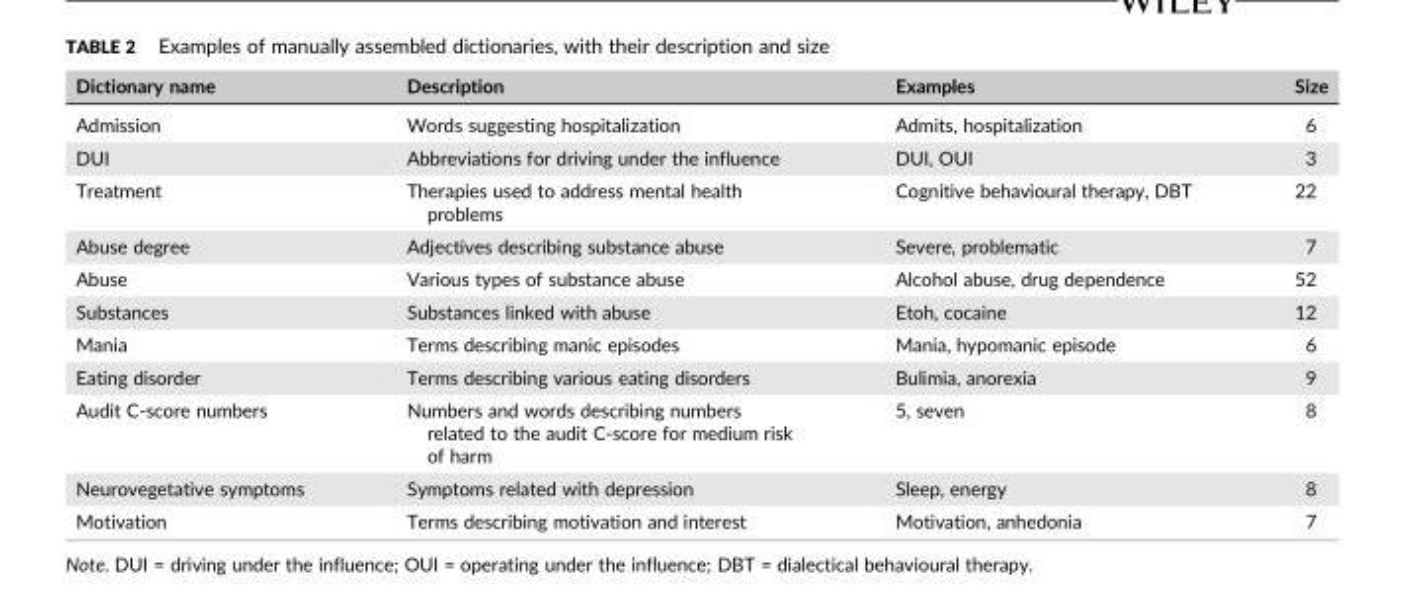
<table><thead><tr><td>Dictionary name</td><td>Description</td><td>Examples</td><td>Size</td></tr></thead><tbody><tr><td>Admission</td><td>Words suggesting hospitalization</td><td>Admits, hospitalization</td><td>6</td></tr><tr><td>DUI</td><td>Abbreviations for driving under the influence</td><td>DUI, OUI</td><td>3</td></tr><tr><td>Treatment</td><td>Therapies used to address mental health problems</td><td>Cognitive behavioural therapy, DBT</td><td>22</td></tr><tr><td>Abuse degree</td><td>Adjectives describing substance abuse</td><td>Severe, problematic</td><td>7</td></tr><tr><td>Abuse</td><td>Various types of substance abuse</td><td>Alcohol abuse, drug dependence</td><td>52</td></tr><tr><td>Substances</td><td>Substances linked with abuse</td><td>Etoh, cocaine</td><td>12</td></tr><tr><td>Mania</td><td>Terms describing manic episodes</td><td>Mania, hypomanic episode</td><td>6</td></tr><tr><td>Eating disorder</td><td>Terms describing various eating disorders</td><td>Bulimia, anorexia</td><td>9</td></tr><tr><td>Audit C‐score numbers</td><td>Numbers and words describing numbers related to the audit C‐score for medium risk of harm</td><td>5, seven</td><td>8</td></tr><tr><td>Neurovegetative symptoms</td><td>Symptoms related with depression</td><td>Sleep, energy</td><td>8</td></tr><tr><td>Motivation</td><td>Terms describing motivation and interest</td><td>Motivation, anhedonia</td><td>7</td></tr></tbody></table>